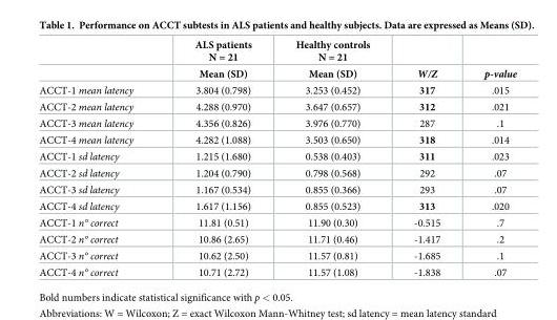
<table><thead><tr><td rowspan="2"></td><td rowspan="2">ALS patients N = 21 Mean (SD)</td><td rowspan="2">Healthy controls N = 21 Mean (SD)</td><td rowspan="2">W/Z</td><td rowspan="2">p-value</td></tr><tr></tr></thead><tbody><tr><td>ACCT-1 mean latency</td><td>3.804 (0.798)</td><td>3.253 (0.452)</td><td>317</td><td>.015</td></tr><tr><td>ACCT-2 mean latency</td><td>4.288 (0.970)</td><td>3.647 (0.657)</td><td>312</td><td>.021</td></tr><tr><td>ACCT-3 mean latency</td><td>4.356 (0.826)</td><td>3.976 (0.770)</td><td>287</td><td>.1</td></tr><tr><td>ACCT-4 mean latency</td><td>4.282 (1.088)</td><td>3.503 (0.650)</td><td>318</td><td>.014</td></tr><tr><td>ACCT-1 sd latency</td><td>1.215 (1.680)</td><td>0.538 (0.403)</td><td>311</td><td>.023</td></tr><tr><td>ACCT-2 sd latency</td><td>1.204 (0.790)</td><td>0.798 (0.568)</td><td>292</td><td>.07</td></tr><tr><td>ACCT-3 sd latency</td><td>1.167 (0.534)</td><td>0.855 (0.366)</td><td>293</td><td>.07</td></tr><tr><td>ACCT-4 sd latency</td><td>1.617 (1.156)</td><td>0.855 (0.523)</td><td>313</td><td>.020</td></tr><tr><td>ACCT-1 n° correct</td><td>11.81 (0.51)</td><td>11.90 (0.30)</td><td>-0.515</td><td>.7</td></tr><tr><td>ACCT-2 n° correct</td><td>10.86 (2.65)</td><td>11.71 (0.46)</td><td>-1.417</td><td>.2</td></tr><tr><td>ACCT-3 n° correct</td><td>10.62 (2.50)</td><td>11.57 (0.81)</td><td>-1.685</td><td>.1</td></tr><tr><td>ACCT-4 n° correct</td><td>10.71 (2.72)</td><td>11.57 (1.08)</td><td>-1.838</td><td>.07</td></tr></tbody></table>